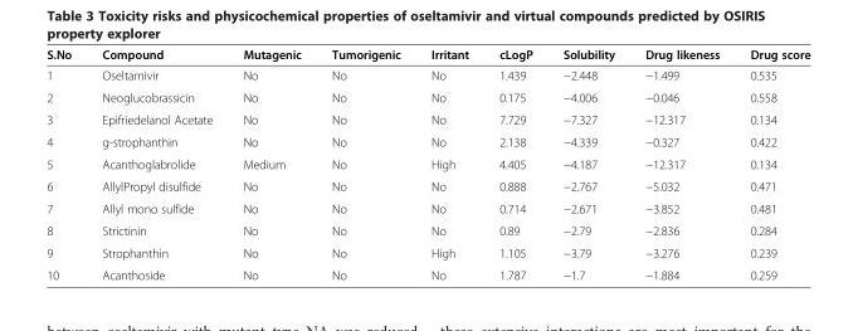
<table><thead><tr><td>S.No</td><td>Compound</td><td>Mutagenic</td><td>Tumorigenic</td><td>Irritant</td><td>cLogP</td><td>Solubility</td><td>Drug likeness</td><td>Drug score</td></tr></thead><tbody><tr><td>1</td><td>Oseltamivir</td><td>No</td><td>No</td><td>No</td><td>1.439</td><td>−2.448</td><td>−1.499</td><td>0.535</td></tr><tr><td>2</td><td>Neoglucobrassicin</td><td>No</td><td>No</td><td>No</td><td>0.175</td><td>−4.006</td><td>−0.046</td><td>0.558</td></tr><tr><td>3</td><td>Epifriedelanol Acetate</td><td>No</td><td>No</td><td>No</td><td>7.729</td><td>−7.327</td><td>−12.317</td><td>0.134</td></tr><tr><td>4</td><td>g-strophanthin</td><td>No</td><td>No</td><td>No</td><td>2.138</td><td>−4.339</td><td>−0.327</td><td>0.422</td></tr><tr><td>5</td><td>Acanthoglabrolide</td><td>Medium</td><td>No</td><td>High</td><td>4.405</td><td>−4.187</td><td>−12.317</td><td>0.134</td></tr><tr><td>6</td><td>AllylPropyl disulfide</td><td>No</td><td>No</td><td>No</td><td>0.888</td><td>−2.767</td><td>−5.032</td><td>0.471</td></tr><tr><td>7</td><td>Allyl mono sulfide</td><td>No</td><td>No</td><td>No</td><td>0.714</td><td>−2.671</td><td>−3.852</td><td>0.481</td></tr><tr><td>8</td><td>Strictinin</td><td>No</td><td>No</td><td>No</td><td>0.89</td><td>−2.79</td><td>−2.836</td><td>0.284</td></tr><tr><td>9</td><td>Strophanthin</td><td>No</td><td>No</td><td>High</td><td>1.105</td><td>−3.79</td><td>−3.276</td><td>0.239</td></tr><tr><td>10</td><td>Acanthoside</td><td>No</td><td>No</td><td>No</td><td>1.787</td><td>−1.7</td><td>−1.884</td><td>0.259</td></tr></tbody></table>